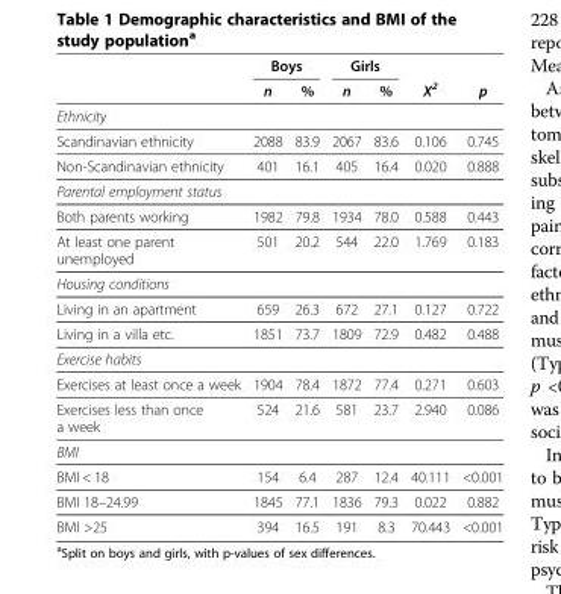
<table><thead><tr><td rowspan="2"></td><td colspan="2">Boys</td><td colspan="2">Girls</td><td rowspan="2">Χ<sup>2</sup></td><td rowspan="2">p</td></tr><tr><td>n</td><td>%</td><td>n</td><td>%</td></tr></thead><tbody><tr><td colspan="7">Ethnicity</td></tr><tr><td>Scandinavian ethnicity</td><td>2088</td><td>83.9</td><td>2067</td><td>83.6</td><td>0.106</td><td>0.745</td></tr><tr><td>Non-Scandinavian ethnicity</td><td>401</td><td>16.1</td><td>405</td><td>16.4</td><td>0.020</td><td>0.888</td></tr><tr><td colspan="7">Parental employment status</td></tr><tr><td>Both parents working</td><td>1982</td><td>79.8</td><td>1934</td><td>78.0</td><td>0.588</td><td>0.443</td></tr><tr><td>At least one parent unemployed</td><td>501</td><td>20.2</td><td>544</td><td>22.0</td><td>1.769</td><td>0.183</td></tr><tr><td colspan="7">Housing conditions</td></tr><tr><td>Living in an apartment</td><td>659</td><td>26.3</td><td>672</td><td>27.1</td><td>0.127</td><td>0.722</td></tr><tr><td>Living in a villa etc.</td><td>1851</td><td>73.7</td><td>1809</td><td>72.9</td><td>0.482</td><td>0.488</td></tr><tr><td colspan="7">Exercise habits</td></tr><tr><td>Exercises at least once a week</td><td>1904</td><td>78.4</td><td>1872</td><td>77.4</td><td>0.271</td><td>0.603</td></tr><tr><td>Exercises less than once a week</td><td>524</td><td>21.6</td><td>581</td><td>23.7</td><td>2.940</td><td>0.086</td></tr><tr><td colspan="7">BMI</td></tr><tr><td>BMI &lt; 18</td><td>154</td><td>6.4</td><td>287</td><td>12.4</td><td>40.111</td><td>&lt;0.001</td></tr><tr><td>BMI 18–24.99</td><td>1845</td><td>77.1</td><td>1836</td><td>79.3</td><td>0.022</td><td>0.882</td></tr><tr><td>BMI &gt;25</td><td>394</td><td>16.5</td><td>191</td><td>8.3</td><td>70.443</td><td>&lt;0.001</td></tr></tbody></table>